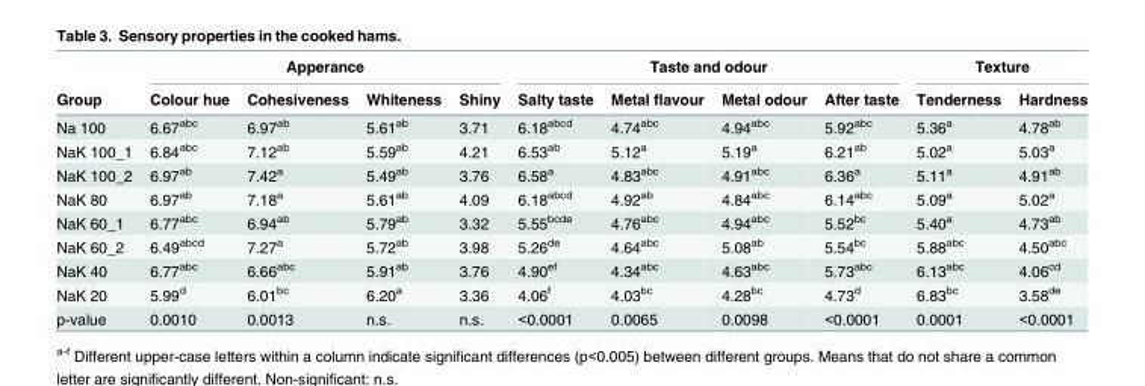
<table><thead><tr><td rowspan="2">Group</td><td colspan="4">Apperance</td><td colspan="4">Taste and odour</td><td colspan="2">Texture</td></tr><tr><td>Colour hue</td><td>Cohesiveness</td><td>Whiteness</td><td>Shiny</td><td>Salty taste</td><td>Metal flavour</td><td>Metal odour</td><td>After taste</td><td>Tenderness</td><td>Hardness</td></tr></thead><tbody><tr><td>Na 100</td><td>6.67<sup>abc</sup></td><td>6.97<sup>ab</sup></td><td>5.61<sup>ab</sup></td><td>3.71</td><td>6.18<sup>abcd</sup></td><td>4.74<sup>abc</sup></td><td>4.94<sup>abc</sup></td><td>5.92<sup>abc</sup></td><td>5.36<sup>a</sup></td><td>4.78<sup>ab</sup></td></tr><tr><td>NaK 100_1</td><td>6.84<sup>abc</sup></td><td>7.12<sup>ab</sup></td><td>5.59<sup>ab</sup></td><td>4.21</td><td>6.53<sup>ab</sup></td><td>5.12<sup>a</sup></td><td>5.19<sup>a</sup></td><td>6.21<sup>ab</sup></td><td>5.02<sup>a</sup></td><td>5.03<sup>a</sup></td></tr><tr><td>NaK 100_2</td><td>6.97<sup>ab</sup></td><td>7.42<sup>a</sup></td><td>5.49<sup>ab</sup></td><td>3.76</td><td>6.58<sup>a</sup></td><td>4.83<sup>abc</sup></td><td>4.91<sup>abc</sup></td><td>6.36<sup>a</sup></td><td>5.11<sup>a</sup></td><td>4.91<sup>ab</sup></td></tr><tr><td>NaK 80</td><td>6.97<sup>ab</sup></td><td>7.18<sup>a</sup></td><td>5.61<sup>ab</sup></td><td>4.09</td><td>6.18<sup>abcd</sup></td><td>4.92<sup>ab</sup></td><td>4.84<sup>abc</sup></td><td>6.14<sup>abc</sup></td><td>5.09<sup>a</sup></td><td>5.02<sup>a</sup></td></tr><tr><td>NaK 60_1</td><td>6.77<sup>abc</sup></td><td>6.94<sup>ab</sup></td><td>5.79<sup>ab</sup></td><td>3.32</td><td>5.55<sup>bcde</sup></td><td>4.76<sup>abc</sup></td><td>4.94<sup>abc</sup></td><td>5.52<sup>bc</sup></td><td>5.40<sup>a</sup></td><td>4.73<sup>ab</sup></td></tr><tr><td>NaK 60_2</td><td>6.49<sup>abcd</sup></td><td>7.27<sup>a</sup></td><td>5.72<sup>ab</sup></td><td>3.98</td><td>5.26<sup>de</sup></td><td>4.64<sup>abc</sup></td><td>5.08<sup>ab</sup></td><td>5.54<sup>bc</sup></td><td>5.88<sup>abc</sup></td><td>4.50<sup>abc</sup></td></tr><tr><td>NaK 40</td><td>6.77<sup>abc</sup></td><td>6.66<sup>abc</sup></td><td>5.91<sup>ab</sup></td><td>3.76</td><td>4.90<sup>ef</sup></td><td>4.34<sup>abc</sup></td><td>4.63<sup>abc</sup></td><td>5.73<sup>abc</sup></td><td>6.13<sup>abc</sup></td><td>4.06<sup>cd</sup></td></tr><tr><td>NaK 20</td><td>5.99<sup>d</sup></td><td>6.01<sup>bc</sup></td><td>6.20<sup>a</sup></td><td>3.36</td><td>4.06<sup>f</sup></td><td>4.03<sup>bc</sup></td><td>4.28<sup>bc</sup></td><td>4.73<sup>d</sup></td><td>6.83<sup>bc</sup></td><td>3.58<sup>de</sup></td></tr><tr><td>p-value</td><td>0.0010</td><td>0.0013</td><td>n.s.</td><td>n.s.</td><td>&lt;0.0001</td><td>0.0065</td><td>0.0098</td><td>&lt;0.0001</td><td>0.0001</td><td>&lt;0.0001</td></tr></tbody></table>